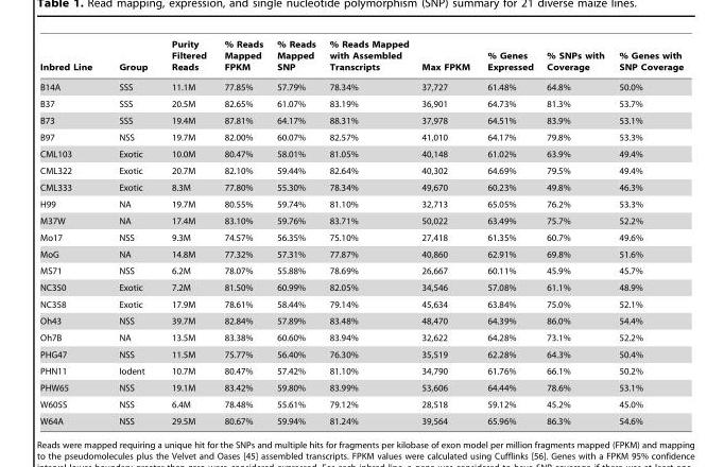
<table><thead><tr><td>Inbred Line</td><td>Group</td><td>Purity Filtered Reads</td><td>% Reads Mapped FPKM</td><td>% Reads Mapped SNP</td><td>% Reads Mapped with Assembled Transcripts</td><td>Max FPKM</td><td>% Genes Expressed</td><td>% SNPs with Coverage</td><td>% Genes with SNP Coverage</td></tr></thead><tbody><tr><td>B14A</td><td>SSS</td><td>11.1M</td><td>77.85%</td><td>57.79%</td><td>78.34%</td><td>37,727</td><td>61.48%</td><td>64.8%</td><td>50.0%</td></tr><tr><td>B37</td><td>SSS</td><td>20.5M</td><td>82.65%</td><td>61.07%</td><td>83.19%</td><td>36,901</td><td>64.73%</td><td>81.3%</td><td>53.7%</td></tr><tr><td>B73</td><td>SSS</td><td>19.4M</td><td>87.81%</td><td>64.17%</td><td>88.31%</td><td>37,978</td><td>64.51%</td><td>83.9%</td><td>53.1%</td></tr><tr><td>B97</td><td>NSS</td><td>19.7M</td><td>82.00%</td><td>60.07%</td><td>82.57%</td><td>41,010</td><td>64.17%</td><td>79.8%</td><td>53.3%</td></tr><tr><td>CML103</td><td>Exotic</td><td>10.0M</td><td>80.47%</td><td>58.01%</td><td>81.05%</td><td>40,148</td><td>61.02%</td><td>63.9%</td><td>49.4%</td></tr><tr><td>CML322</td><td>Exotic</td><td>20.7M</td><td>82.10%</td><td>59.44%</td><td>82.64%</td><td>40,302</td><td>64.69%</td><td>79.5%</td><td>49.4%</td></tr><tr><td>CML333</td><td>Exotic</td><td>8.3M</td><td>77.80%</td><td>55.30%</td><td>78.34%</td><td>49,670</td><td>60.23%</td><td>49.8%</td><td>46.3%</td></tr><tr><td>H99</td><td>NA</td><td>19.7M</td><td>80.55%</td><td>59.74%</td><td>81.10%</td><td>32,713</td><td>65.05%</td><td>76.2%</td><td>53.3%</td></tr><tr><td>M37W</td><td>NA</td><td>17.4M</td><td>83.10%</td><td>59.76%</td><td>83.71%</td><td>50,022</td><td>63.49%</td><td>75.7%</td><td>52.2%</td></tr><tr><td>Mo17</td><td>NSS</td><td>9.3M</td><td>74.57%</td><td>56.35%</td><td>75.10%</td><td>27,418</td><td>61.35%</td><td>60.7%</td><td>49.6%</td></tr><tr><td>MoG</td><td>NA</td><td>14.8M</td><td>77.32%</td><td>57.31%</td><td>77.87%</td><td>40,860</td><td>62.91%</td><td>69.8%</td><td>51.6%</td></tr><tr><td>MS71</td><td>NSS</td><td>6.2M</td><td>78.07%</td><td>55.88%</td><td>78.69%</td><td>26,667</td><td>60.11%</td><td>45.9%</td><td>45.7%</td></tr><tr><td>NC350</td><td>Exotic</td><td>7.2M</td><td>81.50%</td><td>60.99%</td><td>82.05%</td><td>34,546</td><td>57.08%</td><td>61.1%</td><td>48.9%</td></tr><tr><td>NC358</td><td>Exotic</td><td>17.9M</td><td>78.61%</td><td>58.44%</td><td>79.14%</td><td>45,634</td><td>63.84%</td><td>75.0%</td><td>52.1%</td></tr><tr><td>Oh43</td><td>NSS</td><td>39.7M</td><td>82.84%</td><td>57.89%</td><td>83.48%</td><td>48,470</td><td>64.39%</td><td>86.0%</td><td>54.4%</td></tr><tr><td>Oh7B</td><td>NA</td><td>13.5M</td><td>83.38%</td><td>60.60%</td><td>83.94%</td><td>32,622</td><td>64.28%</td><td>73.1%</td><td>52.2%</td></tr><tr><td>PHG47</td><td>NSS</td><td>11.5M</td><td>75.77%</td><td>56.40%</td><td>76.30%</td><td>35,519</td><td>62.28%</td><td>64.3%</td><td>50.4%</td></tr><tr><td>PHN11</td><td>Iodent</td><td>10.7M</td><td>80.47%</td><td>57.42%</td><td>81.10%</td><td>34,790</td><td>61.76%</td><td>66.1%</td><td>50.2%</td></tr><tr><td>PHW65</td><td>NSS</td><td>19.1M</td><td>83.42%</td><td>59.80%</td><td>83.99%</td><td>53,606</td><td>64.44%</td><td>78.6%</td><td>53.1%</td></tr><tr><td>W605S</td><td>NSS</td><td>6.4M</td><td>78.48%</td><td>55.61%</td><td>79.12%</td><td>28,518</td><td>59.12%</td><td>45.2%</td><td>45.0%</td></tr><tr><td>W64A</td><td>NSS</td><td>29.5M</td><td>80.67%</td><td>59.94%</td><td>81.24%</td><td>39,564</td><td>65.96%</td><td>86.3%</td><td>54.6%</td></tr></tbody></table>